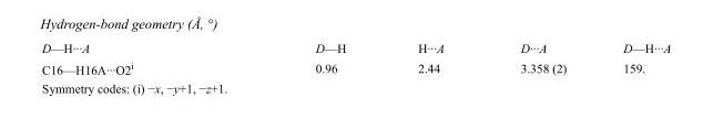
<table><tbody><tr><td>D—H···A</td><td>D—H</td><td>H···A</td><td>D···A</td><td>D—H···A</td></tr><tr><td>C16—H16A···O2<sup>i</sup></td><td>0.96</td><td>2.44</td><td>3.358 (2)</td><td>159.</td></tr></tbody></table>